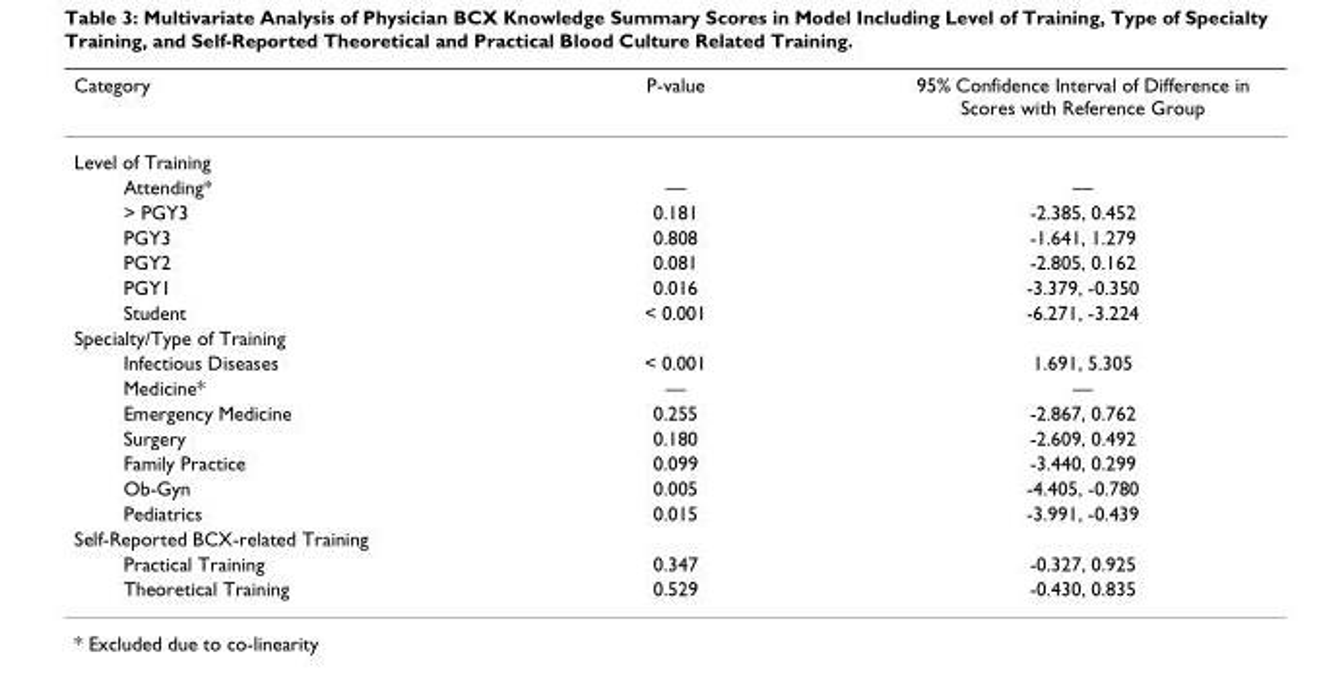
<table><thead><tr><td>Category</td><td>P-value</td><td>95% Confidence Interval of Difference in Scores with Reference Group</td></tr></thead><tbody><tr><td colspan="3">Level of Training</td></tr><tr><td>Attending*</td><td>—</td><td>—</td></tr><tr><td>&gt; PGY3</td><td>0.181</td><td>-2.385, 0.452</td></tr><tr><td>PGY3</td><td>0.808</td><td>-1.641, 1.279</td></tr><tr><td>PGY2</td><td>0.081</td><td>-2.805, 0.162</td></tr><tr><td>PGY1</td><td>0.016</td><td>-3.379, -0.350</td></tr><tr><td>Student</td><td>&lt; 0.001</td><td>-6.271, -3.224</td></tr><tr><td colspan="3">Specialty/Type of Training</td></tr><tr><td>Infectious Diseases</td><td>&lt; 0.001</td><td>1.691, 5.305</td></tr><tr><td>Medicine*</td><td>—</td><td>—</td></tr><tr><td>Emergency Medicine</td><td>0.255</td><td>-2.867, 0.762</td></tr><tr><td>Surgery</td><td>0.180</td><td>-2.609, 0.492</td></tr><tr><td>Family Practice</td><td>0.099</td><td>-3.440, 0.299</td></tr><tr><td>Ob-Gyn</td><td>0.005</td><td>-4.405, -0.780</td></tr><tr><td>Pediatrics</td><td>0.015</td><td>-3.991, -0.439</td></tr><tr><td colspan="3">Self-Reported BCX-related Training</td></tr><tr><td>Practical Training</td><td>0.347</td><td>-0.327, 0.925</td></tr><tr><td>Theoretical Training</td><td>0.529</td><td>-0.430, 0.835</td></tr></tbody></table>